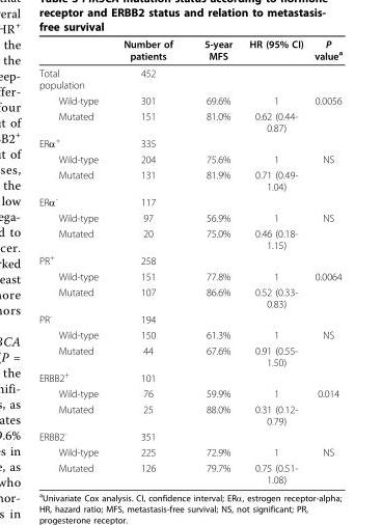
<table><thead><tr><td></td><td>Number of patients</td><td>5-year MFS</td><td>HR (95% CI)</td><td>P value<sup>a</sup></td></tr></thead><tbody><tr><td>Total population</td><td>452</td><td></td><td></td><td></td></tr><tr><td>Wild-type</td><td>301</td><td>69.6%</td><td>1</td><td>0.0056</td></tr><tr><td>Mutated</td><td>151</td><td>81.0%</td><td>0.62 (0.44- 0.87)</td><td></td></tr><tr><td>ERα<sup>+</sup></td><td>335</td><td></td><td></td><td></td></tr><tr><td>Wild-type</td><td>204</td><td>75.6%</td><td>1</td><td>NS</td></tr><tr><td>Mutated</td><td>131</td><td>81.9%</td><td>0.71 (0.49- 1.04)</td><td></td></tr><tr><td>ERα<sup>-</sup></td><td>117</td><td></td><td></td><td></td></tr><tr><td>Wild-type</td><td>97</td><td>56.9%</td><td>1</td><td>NS</td></tr><tr><td>Mutated</td><td>20</td><td>75.0%</td><td>0.46 (0.18- 1.15)</td><td></td></tr><tr><td>PR<sup>+</sup></td><td>258</td><td></td><td></td><td></td></tr><tr><td>Wild-type</td><td>151</td><td>77.8%</td><td>1</td><td>0.0064</td></tr><tr><td>Mutated</td><td>107</td><td>86.6%</td><td>0.52 (0.33- 0.83)</td><td></td></tr><tr><td>PR<sup>-</sup></td><td>194</td><td></td><td></td><td></td></tr><tr><td>Wild-type</td><td>150</td><td>61.3%</td><td>1</td><td>NS</td></tr><tr><td>Mutated</td><td>44</td><td>67.6%</td><td>0.91 (0.55- 1.50)</td><td></td></tr><tr><td>ERBB2<sup>+</sup></td><td>101</td><td></td><td></td><td></td></tr><tr><td>Wild-type</td><td>76</td><td>59.9%</td><td>1</td><td>0.014</td></tr><tr><td>Mutated</td><td>25</td><td>88.0%</td><td>0.31 (0.12- 0.79)</td><td></td></tr><tr><td>ERBB2<sup>-</sup></td><td>351</td><td></td><td></td><td></td></tr><tr><td>Wild-type</td><td>225</td><td>72.9%</td><td>1</td><td>NS</td></tr><tr><td>Mutated</td><td>126</td><td>79.7%</td><td>0.75 (0.51- 1.08)</td><td></td></tr></tbody></table>